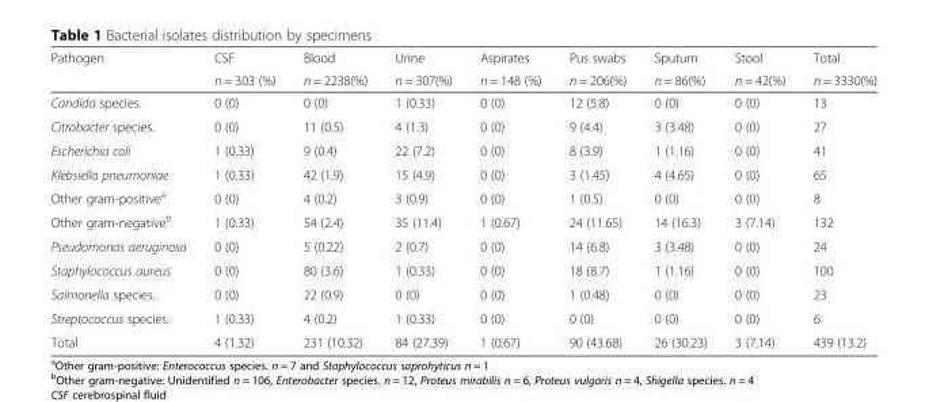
<table><thead><tr><td rowspan="2">Pathogen</td><td rowspan="2">CSF n = 303 (%)</td><td rowspan="2">Blood n = 2238(%)</td><td rowspan="2">Urine n = 307(%)</td><td rowspan="2">Aspirates n = 148 (%)</td><td rowspan="2">Pus swabs n = 206(%)</td><td rowspan="2">Sputum n = 86(%)</td><td rowspan="2">Stool n = 42(%)</td><td rowspan="2">Total n = 3330(%)</td></tr><tr></tr></thead><tbody><tr><td>Candida species.</td><td>0 (0)</td><td>0 (0)</td><td>1 (0.33)</td><td>0 (0)</td><td>12 (5.8)</td><td>0 (0)</td><td>0 (0)</td><td>13</td></tr><tr><td>Citrobacter species.</td><td>0 (0)</td><td>11 (0.5)</td><td>4 (1.3)</td><td>0 (0)</td><td>9 (4.4)</td><td>3 (3.48)</td><td>0 (0)</td><td>27</td></tr><tr><td>Escherichia coli</td><td>1 (0.33)</td><td>9 (0.4)</td><td>22 (7.2)</td><td>0 (0)</td><td>8 (3.9)</td><td>1 (1.16)</td><td>0 (0)</td><td>41</td></tr><tr><td>Klebsiella pneumoniae</td><td>1 (0.33)</td><td>42 (1.9)</td><td>15 (4.9)</td><td>0 (0)</td><td>3 (1.45)</td><td>4 (4.65)</td><td>0 (0)</td><td>65</td></tr><tr><td>Other gram-positive<sup>a</sup></td><td>0 (0)</td><td>4 (0.2)</td><td>3 (0.9)</td><td>0 (0)</td><td>1 (0.5)</td><td>0 (0)</td><td>0 (0)</td><td>8</td></tr><tr><td>Other gram-negative<sup>b</sup></td><td>1 (0.33)</td><td>54 (2.4)</td><td>35 (11.4)</td><td>1 (0.67)</td><td>24 (11.65)</td><td>14 (16.3)</td><td>3 (7.14)</td><td>132</td></tr><tr><td>Pseudomonas aeruginosa</td><td>0 (0)</td><td>5 (0.22)</td><td>2 (0.7)</td><td>0 (0)</td><td>14 (6.8)</td><td>3 (3.48)</td><td>0 (0)</td><td>24</td></tr><tr><td>Staphylococcus aureus</td><td>0 (0)</td><td>80 (3.6)</td><td>1 (0.33)</td><td>0 (0)</td><td>18 (8.7)</td><td>1 (1.16)</td><td>0 (0)</td><td>100</td></tr><tr><td>Salmonella species.</td><td>0 (0)</td><td>22 (0.9)</td><td>0 (0)</td><td>0 (0)</td><td>1 (0.48)</td><td>0 (0)</td><td>0 (0)</td><td>23</td></tr><tr><td>Streptococcus species.</td><td>1 (0.33)</td><td>4 (0.2)</td><td>1 (0.33)</td><td>0 (0)</td><td>0 (0)</td><td>0 (0)</td><td>0 (0)</td><td>6</td></tr><tr><td>Total</td><td>4 (1.32)</td><td>231 (10.32)</td><td>84 (27.39)</td><td>1 (0.67)</td><td>90 (43.68)</td><td>26 (30.23)</td><td>3 (7.14)</td><td>439 (13.2)</td></tr></tbody></table>